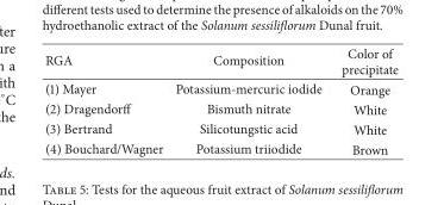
<table><thead><tr><td>RGA</td><td>Composition</td><td>Color of precipitate</td></tr></thead><tbody><tr><td>(1) Mayer</td><td>Potassium-mercuric iodide</td><td>Orange</td></tr><tr><td>(2) Dragendorff</td><td>Bismuth nitrate</td><td>White</td></tr><tr><td>(3) Bertrand</td><td>Silicotungstic acid</td><td>White</td></tr><tr><td>(4) Bouchard/Wagner</td><td>Potassium triiodide</td><td>Brown</td></tr></tbody></table>